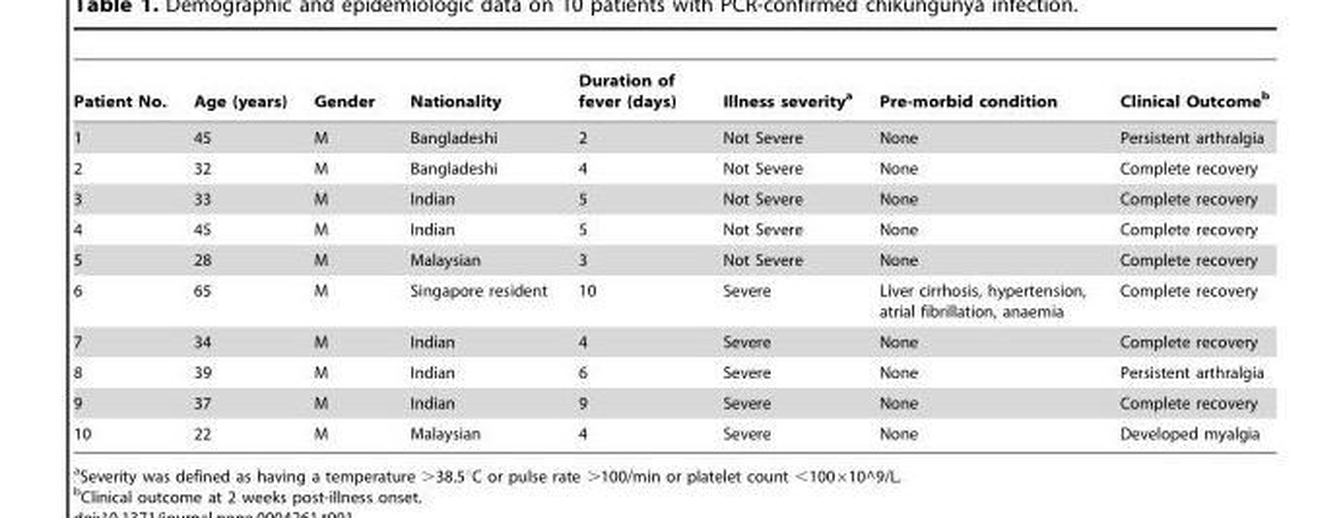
<table><thead><tr><td>Patient No.</td><td>Age (years)</td><td>Gender</td><td>Nationality</td><td>Duration of fever (days)</td><td>Illness severity<sup>a</sup></td><td>Pre-morbid condition</td><td>Clinical Outcome<sup>b</sup></td></tr></thead><tbody><tr><td>1</td><td>45</td><td>M</td><td>Bangladeshi</td><td>2</td><td>Not Severe</td><td>None</td><td>Persistent arthralgia</td></tr><tr><td>2</td><td>32</td><td>M</td><td>Bangladeshi</td><td>4</td><td>Not Severe</td><td>None</td><td>Complete recovery</td></tr><tr><td>3</td><td>33</td><td>M</td><td>Indian</td><td>5</td><td>Not Severe</td><td>None</td><td>Complete recovery</td></tr><tr><td>4</td><td>45</td><td>M</td><td>Indian</td><td>5</td><td>Not Severe</td><td>None</td><td>Complete recovery</td></tr><tr><td>5</td><td>28</td><td>M</td><td>Malaysian</td><td>3</td><td>Not Severe</td><td>None</td><td>Complete recovery</td></tr><tr><td>6</td><td>65</td><td>M</td><td>Singapore resident</td><td>10</td><td>Severe</td><td>Liver cirrhosis, hypertension, atrial fibrillation, anaemia</td><td>Complete recovery</td></tr><tr><td>7</td><td>34</td><td>M</td><td>Indian</td><td>4</td><td>Severe</td><td>None</td><td>Complete recovery</td></tr><tr><td>8</td><td>39</td><td>M</td><td>Indian</td><td>6</td><td>Severe</td><td>None</td><td>Persistent arthralgia</td></tr><tr><td>9</td><td>37</td><td>M</td><td>Indian</td><td>9</td><td>Severe</td><td>None</td><td>Complete recovery</td></tr><tr><td>10</td><td>22</td><td>M</td><td>Malaysian</td><td>4</td><td>Severe</td><td>None</td><td>Developed myalgia</td></tr></tbody></table>